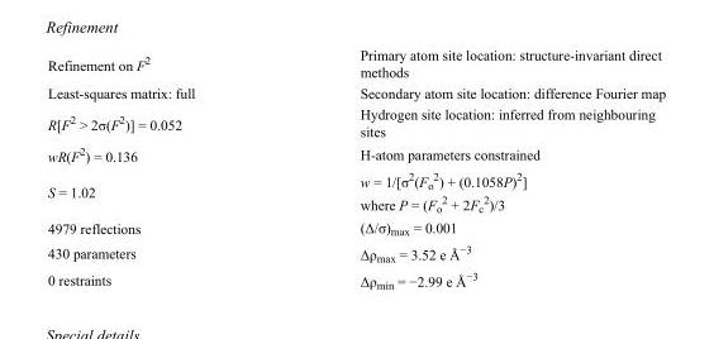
<table><tbody><tr><td>Refinement on F<sup>2</sup></td><td>Primary atom site location: structure-invariant direct methods</td></tr><tr><td>Least-squares matrix: full</td><td>Secondary atom site location: difference Fourier map</td></tr><tr><td>R[F<sup>2</sup> &gt; 2σ(F<sup>2</sup>)] = 0.052</td><td>Hydrogen site location: inferred from neighbouring sites</td></tr><tr><td>wR(F<sup>2</sup>) = 0.136</td><td>H-atom parameters constrained</td></tr><tr><td>S = 1.02</td><td>w = 1/[σ<sup>2</sup>(F<sub>o</sub> <sup>2</sup>) + (0.1058P)<sup>2</sup>] where P = (F<sub>o</sub> <sup>2</sup> + 2F<sub>c</sub> <sup>2</sup>)/3</td></tr><tr><td>4979 reflections</td><td>(Δ/σ)<sub>max</sub> = 0.001</td></tr><tr><td>430 parameters</td><td>Δρ<sub>max</sub> = 3.52 e Å<sup>−3</sup></td></tr><tr><td>0 restraints</td><td>Δρ<sub>min</sub> = −2.99 e Å<sup>−3</sup></td></tr></tbody></table>